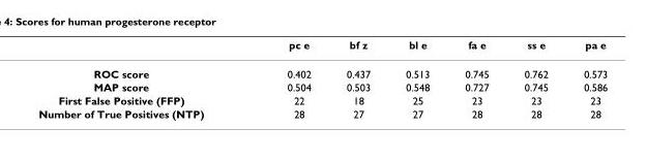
<table><thead><tr><td></td><td>pc e</td><td>bf z</td><td>bl e</td><td>fa e</td><td>ss e</td><td>pa e</td></tr></thead><tbody><tr><td>ROC score</td><td>0.402</td><td>0.437</td><td>0.513</td><td>0.745</td><td>0.762</td><td>0.573</td></tr><tr><td>MAP score</td><td>0.504</td><td>0.503</td><td>0.548</td><td>0.727</td><td>0.745</td><td>0.586</td></tr><tr><td>First False Positive (FFP)</td><td>22</td><td>18</td><td>25</td><td>23</td><td>23</td><td>23</td></tr><tr><td>Number of True Positives (NTP)</td><td>28</td><td>27</td><td>27</td><td>28</td><td>28</td><td>28</td></tr></tbody></table>